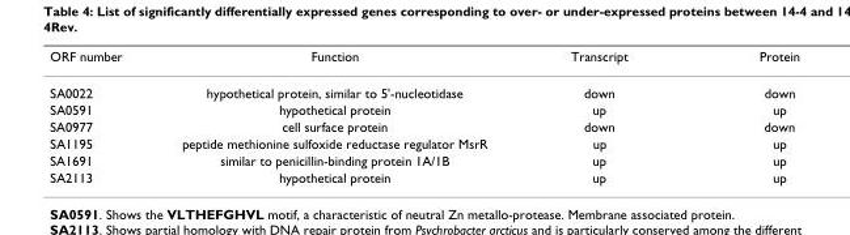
<table><thead><tr><td>ORF number</td><td>Function</td><td>Transcript</td><td>Protein</td></tr></thead><tbody><tr><td>SA0022</td><td>hypothetical protein, similar to 5&#x27;-nucleotidase</td><td>down</td><td>down</td></tr><tr><td>SA0591</td><td>hypothetical protein</td><td>up</td><td>up</td></tr><tr><td>SA0977</td><td>cell surface protein</td><td>down</td><td>down</td></tr><tr><td>SA1195</td><td>peptide methionine sulfoxide reductase regulator MsrR</td><td>up</td><td>up</td></tr><tr><td>SA1691</td><td>similar to penicillin-binding protein 1A/1B</td><td>up</td><td>up</td></tr><tr><td>SA2113</td><td>hypothetical protein</td><td>up</td><td>up</td></tr></tbody></table>